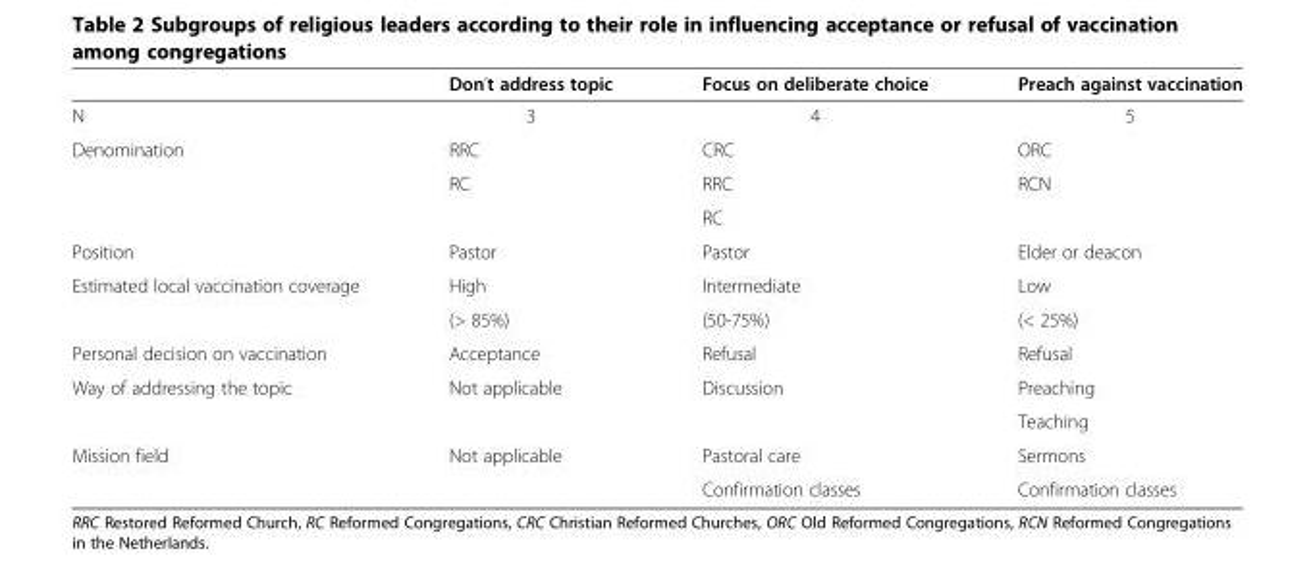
<table><thead><tr><td></td><td>Don’t address topic</td><td>Focus on deliberate choice</td><td>Preach against vaccination</td></tr></thead><tbody><tr><td>N</td><td>3</td><td>4</td><td>5</td></tr><tr><td rowspan="3">Denomination</td><td>RRC</td><td>CRC</td><td>ORC</td></tr><tr><td>RC</td><td>RRC</td><td>RCN</td></tr><tr><td></td><td>RC</td><td></td></tr><tr><td>Position</td><td>Pastor</td><td>Pastor</td><td>Elder or deacon</td></tr><tr><td rowspan="2">Estimated local vaccination coverage</td><td>High</td><td>Intermediate</td><td>Low</td></tr><tr><td>(&gt; 85%)</td><td>(50-75%)</td><td>(&lt; 25%)</td></tr><tr><td>Personal decision on vaccination</td><td>Acceptance</td><td>Refusal</td><td>Refusal</td></tr><tr><td rowspan="2">Way of addressing the topic</td><td>Not applicable</td><td>Discussion</td><td>Preaching</td></tr><tr><td></td><td></td><td>Teaching</td></tr><tr><td rowspan="2">Mission field</td><td>Not applicable</td><td>Pastoral care</td><td>Sermons</td></tr><tr><td></td><td>Confirmation classes</td><td>Confirmation classes</td></tr></tbody></table>